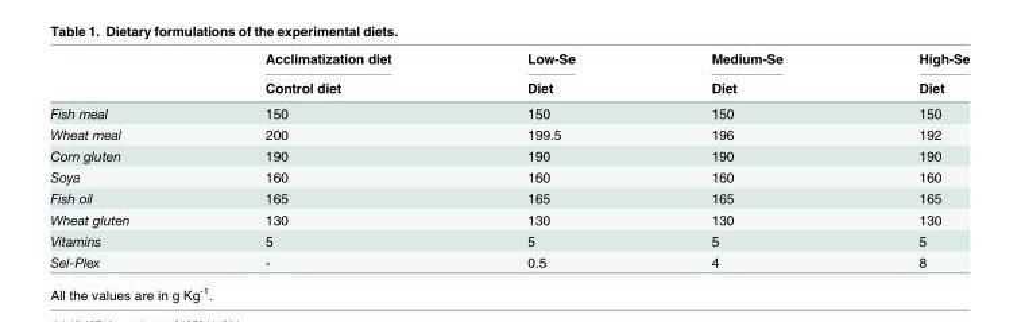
<table><thead><tr><td rowspan="2"></td><td rowspan="2">Acclimatization diet Control diet</td><td rowspan="2">Low-Se Diet</td><td rowspan="2">Medium-Se Diet</td><td rowspan="2">High-Se Diet</td></tr><tr></tr></thead><tbody><tr><td>Fish meal</td><td>150</td><td>150</td><td>150</td><td>150</td></tr><tr><td>Wheat meal</td><td>200</td><td>199.5</td><td>196</td><td>192</td></tr><tr><td>Corn gluten</td><td>190</td><td>190</td><td>190</td><td>190</td></tr><tr><td>Soya</td><td>160</td><td>160</td><td>160</td><td>160</td></tr><tr><td>Fish oil</td><td>165</td><td>165</td><td>165</td><td>165</td></tr><tr><td>Wheat gluten</td><td>130</td><td>130</td><td>130</td><td>130</td></tr><tr><td>Vitamins</td><td>5</td><td>5</td><td>5</td><td>5</td></tr><tr><td>Sel-Plex</td><td>-</td><td>0.5</td><td>4</td><td>8</td></tr></tbody></table>